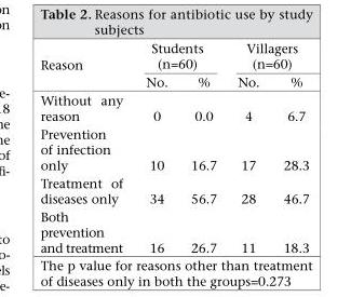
<table><thead><tr><td rowspan="2">Reason</td><td colspan="2">Students (n=60)</td><td colspan="2">Villagers (n=60)</td></tr><tr><td>No.</td><td>%</td><td>No.</td><td>%</td></tr></thead><tbody><tr><td>Without any reason</td><td>0</td><td>0.0</td><td>4</td><td>6.7</td></tr><tr><td>Prevention of infection only</td><td>10</td><td>16.7</td><td>17</td><td>28.3</td></tr><tr><td>Treatment of diseases only</td><td>34</td><td>56.7</td><td>28</td><td>46.7</td></tr><tr><td>Both prevention and treatment</td><td>16</td><td>26.7</td><td>11</td><td>18.3</td></tr></tbody></table>